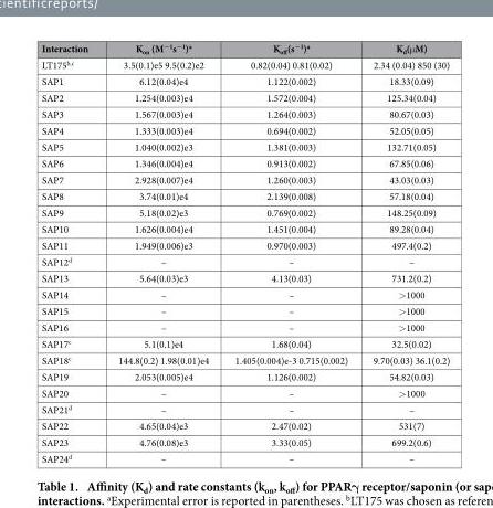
<table><thead><tr><td>Interaction</td><td>K<sub>on</sub> (M<sup>−1</sup>s<sup>−1</sup>)<sup>a</sup></td><td>K<sub>off</sub>(s<sup>−1</sup>)<sup>a</sup></td><td>K<sub>d</sub>(μ M)</td></tr></thead><tbody><tr><td>LT175b,<sup>c</sup></td><td>3.5(0.1)e5 9.5(0.2)e2</td><td>0.82(0.04) 0.81(0.02)</td><td>2.34 (0.04) 850 (30)</td></tr><tr><td>SAP1</td><td>6.12(0.04)e4</td><td>1.122(0.002)</td><td>18.33(0.09)</td></tr><tr><td>SAP2</td><td>1.254(0.003)e4</td><td>1.572(0.004)</td><td>125.34(0.04)</td></tr><tr><td>SAP3</td><td>1.567(0.003)e4</td><td>1.264(0.003)</td><td>80.67(0.03)</td></tr><tr><td>SAP4</td><td>1.333(0.003)e4</td><td>0.694(0.002)</td><td>52.05(0.05)</td></tr><tr><td>SAP5</td><td>1.040(0.002)e3</td><td>1.381(0.003)</td><td>132.71(0.05)</td></tr><tr><td>SAP6</td><td>1.346(0.004)e4</td><td>0.913(0.002)</td><td>67.85(0.06)</td></tr><tr><td>SAP7</td><td>2.928(0.007)e4</td><td>1.260(0.003)</td><td>43.03(0.03)</td></tr><tr><td>SAP8</td><td>3.74(0.01)e4</td><td>2.139(0.008)</td><td>57.18(0.04)</td></tr><tr><td>SAP9</td><td>5.18(0.02)e3</td><td>0.769(0.002)</td><td>148.25(0.09)</td></tr><tr><td>SAP10</td><td>1.626(0.004)e4</td><td>1.451(0.004)</td><td>89.28(0.04)</td></tr><tr><td>SAP11</td><td>1.949(0.006)e3</td><td>0.970(0.003)</td><td>497.4(0.2)</td></tr><tr><td>SAP12<sup>d</sup></td><td>–</td><td>–</td><td>–</td></tr><tr><td>SAP13</td><td>5.64(0.03)e3</td><td>4.13(0.03)</td><td>731.2(0.2)</td></tr><tr><td>SAP14</td><td>–</td><td>–</td><td>&gt; 1000</td></tr><tr><td>SAP15</td><td>–</td><td>–</td><td>&gt; 1000</td></tr><tr><td>SAP16</td><td>–</td><td>–</td><td>&gt; 1000</td></tr><tr><td>SAP17<sup>c</sup></td><td>5.1(0.1)e4</td><td>1.68(0.04)</td><td>32.5(0.02)</td></tr><tr><td>SAP18<sup>c</sup></td><td>144.8(0.2) 1.98(0.01)e4</td><td>1.405(0.004)e-3 0.715(0.002)</td><td>9.70(0.03) 36.1(0.2)</td></tr><tr><td>SAP19</td><td>2.053(0.005)e4</td><td>1.126(0.002)</td><td>54.82(0.03)</td></tr><tr><td>SAP20</td><td>–</td><td>–</td><td>&gt; 1000</td></tr><tr><td>SAP21<sup>d</sup></td><td>–</td><td>–</td><td>–</td></tr><tr><td>SAP22</td><td>4.65(0.04)e3</td><td>2.47(0.02)</td><td>531(7)</td></tr><tr><td>SAP23</td><td>4.76(0.08)e3</td><td>3.33(0.05)</td><td>699.2(0.6)</td></tr><tr><td>SAP24<sup>d</sup></td><td>–</td><td>–</td><td>–</td></tr></tbody></table>